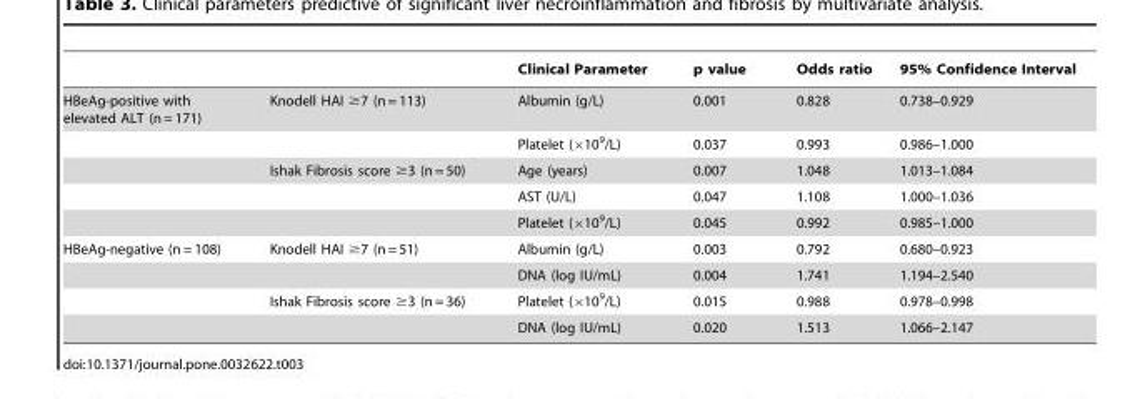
<table><thead><tr><td></td><td></td><td>Clinical Parameter</td><td>p value</td><td>Odds ratio</td><td>95% Confidence Interval</td></tr></thead><tbody><tr><td rowspan="5">HBeAg-positive with elevated ALT (n = 171)</td><td>Knodell HAI ≥7 (n = 113)</td><td>Albumin (g/L)</td><td>0.001</td><td>0.828</td><td>0.738–0.929</td></tr><tr><td></td><td>Platelet (×10<sup>9</sup>/L)</td><td>0.037</td><td>0.993</td><td>0.986–1.000</td></tr><tr><td>Ishak Fibrosis score ≥3 (n = 50)</td><td>Age (years)</td><td>0.007</td><td>1.048</td><td>1.013–1.084</td></tr><tr><td></td><td>AST (U/L)</td><td>0.047</td><td>1.108</td><td>1.000–1.036</td></tr><tr><td></td><td>Platelet (×10<sup>9</sup>/L)</td><td>0.045</td><td>0.992</td><td>0.985–1.000</td></tr><tr><td rowspan="4">HBeAg-negative (n = 108)</td><td>Knodell HAI ≥7 (n = 51)</td><td>Albumin (g/L)</td><td>0.003</td><td>0.792</td><td>0.680–0.923</td></tr><tr><td></td><td>DNA (log IU/mL)</td><td>0.004</td><td>1.741</td><td>1.194–2.540</td></tr><tr><td>Ishak Fibrosis score ≥3 (n = 36)</td><td>Platelet (×10<sup>9</sup>/L)</td><td>0.015</td><td>0.988</td><td>0.978–0.998</td></tr><tr><td></td><td>DNA (log IU/mL)</td><td>0.020</td><td>1.513</td><td>1.066–2.147</td></tr></tbody></table>